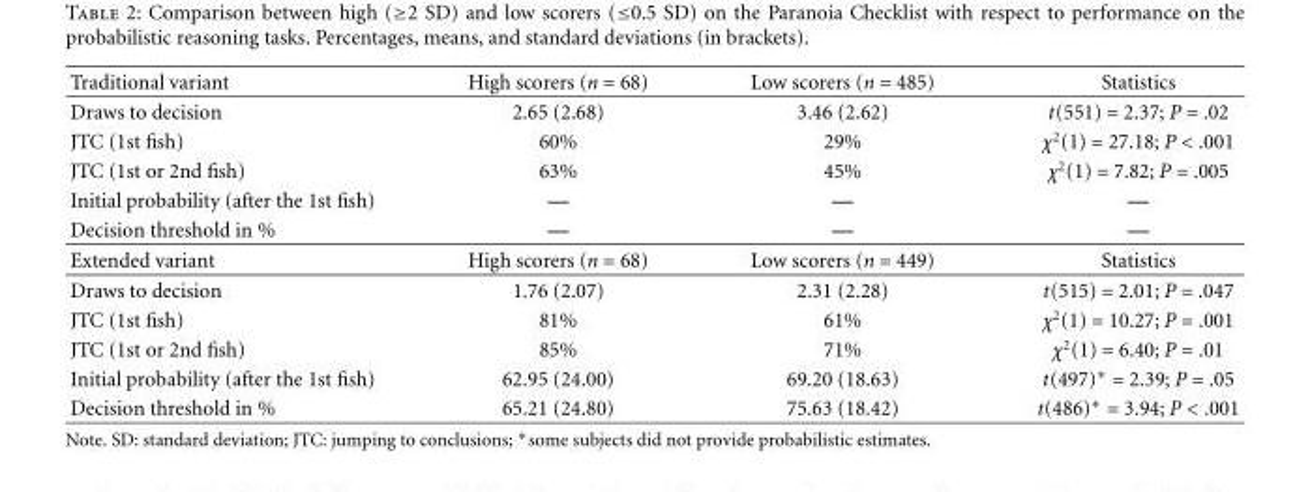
<table><thead><tr><td>Traditional variant</td><td>High scorers (n = 68)</td><td>Low scorers (n = 485)</td><td>Statistics</td></tr></thead><tbody><tr><td>Draws to decision</td><td>2.65 (2.68)</td><td>3.46 (2.62)</td><td>t(551) = 2.37; P = .02</td></tr><tr><td>JTC (1st fish)</td><td>60%</td><td>29%</td><td>χ<sup>2</sup>(1) = 27.18; P &lt; .001</td></tr><tr><td>JTC (1st or 2nd fish)</td><td>63%</td><td>45%</td><td>χ<sup>2</sup>(1) = 7.82; P = .005</td></tr><tr><td>Initial probability (after the 1st fish)</td><td>—</td><td>—</td><td>—</td></tr><tr><td>Decision threshold in %</td><td>—</td><td>—</td><td>—</td></tr><tr><td>Extended variant</td><td>High scorers (n = 68)</td><td>Low scorers (n = 449)</td><td>Statistics</td></tr><tr><td>Draws to decision</td><td>1.76 (2.07)</td><td>2.31 (2.28)</td><td>t(515) = 2.01; P = .047</td></tr><tr><td>JTC (1st fish)</td><td>81%</td><td>61%</td><td>χ<sup>2</sup>(1) = 10.27; P = .001</td></tr><tr><td>JTC (1st or 2nd fish)</td><td>85%</td><td>71%</td><td>χ<sup>2</sup>(1) = 6.40; P = .01</td></tr><tr><td>Initial probability (after the 1st fish)</td><td>62.95 (24.00)</td><td>69.20 (18.63)</td><td>t(497)∗ = 2.39; P = .05</td></tr><tr><td>Decision threshold in %</td><td>65.21 (24.80)</td><td>75.63 (18.42)</td><td>t(486)∗ = 3.94; P &lt; .001</td></tr></tbody></table>